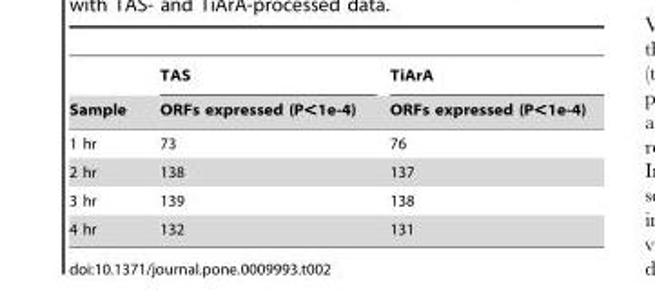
<table><thead><tr><td rowspan="2">Sample</td><td rowspan="2">TAS ORFs expressed (P&lt;1e-4)</td><td rowspan="2">TiArA ORFs expressed (P&lt;1e-4)</td></tr><tr></tr></thead><tbody><tr><td>1 hr</td><td>73</td><td>76</td></tr><tr><td>2 hr</td><td>138</td><td>137</td></tr><tr><td>3 hr</td><td>139</td><td>138</td></tr><tr><td>4 hr</td><td>132</td><td>131</td></tr></tbody></table>